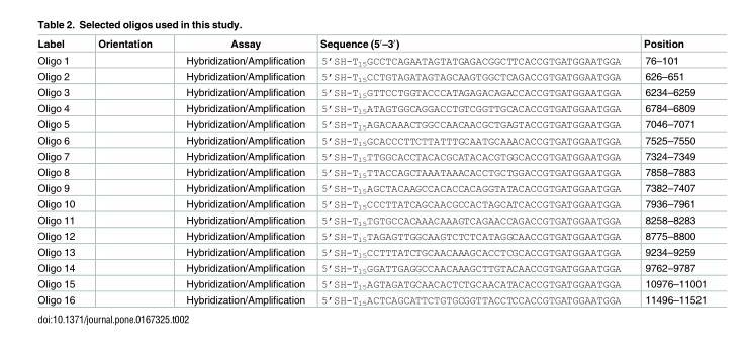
<table><thead><tr><td>Label</td><td>Orientation</td><td>Assay</td><td>Sequence (5′–3′)</td><td>Position</td></tr></thead><tbody><tr><td>Oligo 1</td><td></td><td>Hybridization/Amplification</td><td>5’SH-T<sub>15</sub>GCCTCAGAATAGTATGAGACGGCTTCACCGTGATGGAATGGA</td><td>76–101</td></tr><tr><td>Oligo 2</td><td></td><td>Hybridization/Amplification</td><td>5’SH-T<sub>15</sub>CCTGTAGATAGTAGCAAGTGGCTCAGACCGTGATGGAATGGA</td><td>626–651</td></tr><tr><td>Oligo 3</td><td></td><td>Hybridization/Amplification</td><td>5’SH-T<sub>15</sub>GTTCCTGGTACCCATAGAGACAGACCACCGTGATGGAATGGA</td><td>6234–6259</td></tr><tr><td>Oligo 4</td><td></td><td>Hybridization/Amplification</td><td>5’SH-T<sub>15</sub>ATAGTGGCAGGACCTGTCGGTTGCACACCGTGATGGAATGGA</td><td>6784–6809</td></tr><tr><td>Oligo 5</td><td></td><td>Hybridization/Amplification</td><td>5’SH-T<sub>15</sub>AGACAAACTGGCCAACAACGCTGAGTACCGTGATGGAATGGA</td><td>7046–7071</td></tr><tr><td>Oligo 6</td><td></td><td>Hybridization/Amplification</td><td>5’SH-T<sub>15</sub>GCACCCTTCTTATTTGCAATGCAAACACCGTGATGGAATGGA</td><td>7525–7550</td></tr><tr><td>Oligo 7</td><td></td><td>Hybridization/Amplification</td><td>5’SH-T<sub>15</sub>TTGGCACCTACACGCATACACGTGGCACCGTGATGGAATGGA</td><td>7324–7349</td></tr><tr><td>Oligo 8</td><td></td><td>Hybridization/Amplification</td><td>5’SH-T<sub>15</sub>TTACCAGCTAAATAAACACCTGCTGGACCGTGATGGAATGGA</td><td>7858–7883</td></tr><tr><td>Oligo 9</td><td></td><td>Hybridization/Amplification</td><td>5’SH-T<sub>15</sub>AGCTACAAGCCACACCACAGGTATACACCGTGATGGAATGGA</td><td>7382–7407</td></tr><tr><td>Oligo 10</td><td></td><td>Hybridization/Amplification</td><td>5’SH-T<sub>15</sub>CCCTTATCAGCAACGCCACTAGCATCACCGTGATGGAATGGA</td><td>7936–7961</td></tr><tr><td>Oligo 11</td><td></td><td>Hybridization/Amplification</td><td>5’SH-T<sub>15</sub>TGTGCCACAAACAAAGTCAGAACCAGACCGTGATGGAATGGA</td><td>8258–8283</td></tr><tr><td>Oligo 12</td><td></td><td>Hybridization/Amplification</td><td>5’SH-T<sub>15</sub>TAGAGTTGGCAAGTCTCTCATAGGCAACCGTGATGGAATGGA</td><td>8775–8800</td></tr><tr><td>Oligo 13</td><td></td><td>Hybridization/Amplification</td><td>5’SH-T<sub>15</sub>CCTTTATCTGCAACAAAGCACCTCGCACCGTGATGGAATGGA</td><td>9234–9259</td></tr><tr><td>Oligo 14</td><td></td><td>Hybridization/Amplification</td><td>5’SH-T<sub>15</sub>GGATTGAGGCCAACAAAGCTTGTACAACCGTGATGGAATGGA</td><td>9762–9787</td></tr><tr><td>Oligo 15</td><td></td><td>Hybridization/Amplification</td><td>5’SH-T<sub>15</sub>AGTAGATGCAACACTCTGCAACATACACCGTGATGGAATGGA</td><td>10976–11001</td></tr><tr><td>Oligo 16</td><td></td><td>Hybridization/Amplification</td><td>5’SH-T<sub>15</sub>ACTCAGCATTCTGTGCGGTTACCTCCACCGTGATGGAATGGA</td><td>11496–11521</td></tr></tbody></table>